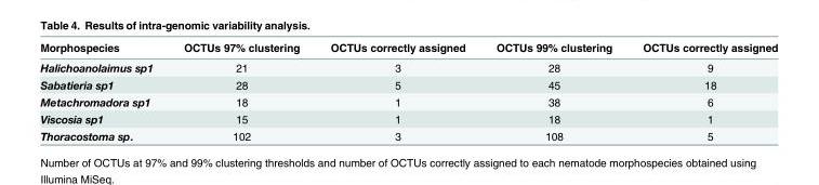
<table><thead><tr><td>Morphospecies</td><td>OCTUs 97% clustering</td><td>OCTUs correctly assigned</td><td>OCTUs 99% clustering</td><td>OCTUs correctly assigned</td></tr></thead><tbody><tr><td>Halichoanolaimus sp1</td><td>21</td><td>3</td><td>28</td><td>9</td></tr><tr><td>Sabatieria sp1</td><td>28</td><td>5</td><td>45</td><td>18</td></tr><tr><td>Metachromadora sp1</td><td>18</td><td>1</td><td>38</td><td>6</td></tr><tr><td>Viscosia sp1</td><td>15</td><td>1</td><td>18</td><td>1</td></tr><tr><td>Thoracostoma sp.</td><td>102</td><td>3</td><td>108</td><td>5</td></tr></tbody></table>